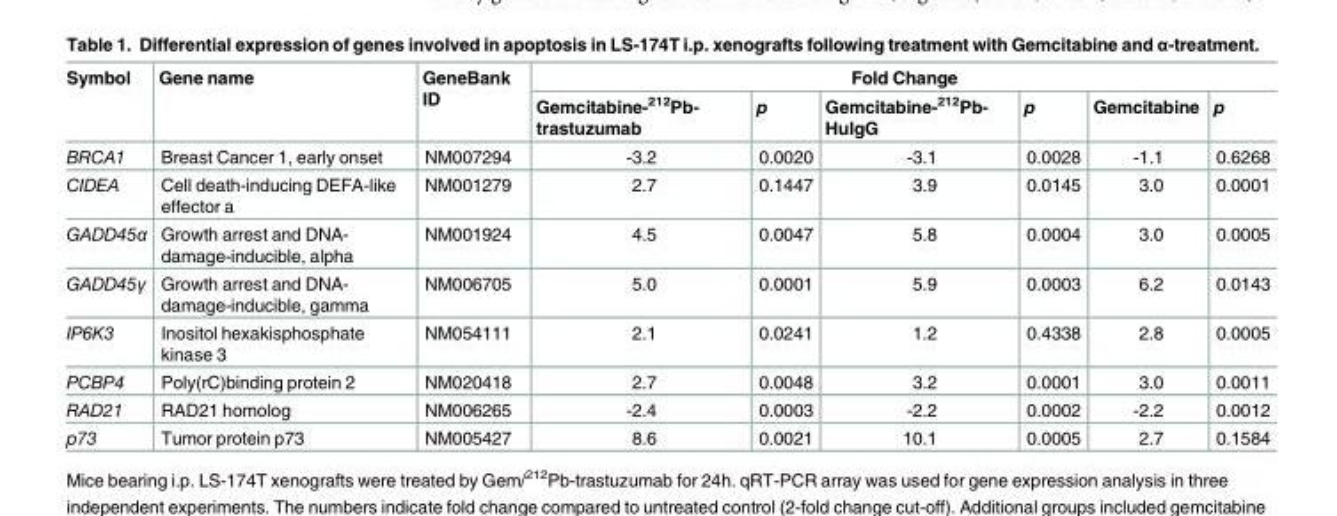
<table><thead><tr><td rowspan="2">Symbol</td><td rowspan="2">Gene name</td><td rowspan="2">GeneBank ID</td><td colspan="6">Fold Change</td></tr><tr><td>Gemcitabine-<sup>212</sup>Pb- trastuzumab</td><td>p</td><td>Gemcitabine-<sup>212</sup>Pb- HuIgG</td><td>p</td><td>Gemcitabine</td><td>p</td></tr></thead><tbody><tr><td>BRCA1</td><td>Breast Cancer 1, early onset</td><td>NM007294</td><td>-3.2</td><td>0.0020</td><td>-3.1</td><td>0.0028</td><td>-1.1</td><td>0.6268</td></tr><tr><td>CIDEA</td><td>Cell death-inducing DEFA-like effector a</td><td>NM001279</td><td>2.7</td><td>0.1447</td><td>3.9</td><td>0.0145</td><td>3.0</td><td>0.0001</td></tr><tr><td>GADD45α</td><td>Growth arrest and DNA- damage-inducible, alpha</td><td>NM001924</td><td>4.5</td><td>0.0047</td><td>5.8</td><td>0.0004</td><td>3.0</td><td>0.0005</td></tr><tr><td>GADD45γ</td><td>Growth arrest and DNA- damage-inducible, gamma</td><td>NM006705</td><td>5.0</td><td>0.0001</td><td>5.9</td><td>0.0003</td><td>6.2</td><td>0.0143</td></tr><tr><td>IP6K3</td><td>Inositol hexakisphosphate kinase 3</td><td>NM054111</td><td>2.1</td><td>0.0241</td><td>1.2</td><td>0.4338</td><td>2.8</td><td>0.0005</td></tr><tr><td>PCBP4</td><td>Poly(rC)binding protein 2</td><td>NM020418</td><td>2.7</td><td>0.0048</td><td>3.2</td><td>0.0001</td><td>3.0</td><td>0.0011</td></tr><tr><td>RAD21</td><td>RAD21 homolog</td><td>NM006265</td><td>-2.4</td><td>0.0003</td><td>-2.2</td><td>0.0002</td><td>-2.2</td><td>0.0012</td></tr><tr><td>p73</td><td>Tumor protein p73</td><td>NM005427</td><td>8.6</td><td>0.0021</td><td>10.1</td><td>0.0005</td><td>2.7</td><td>0.1584</td></tr></tbody></table>